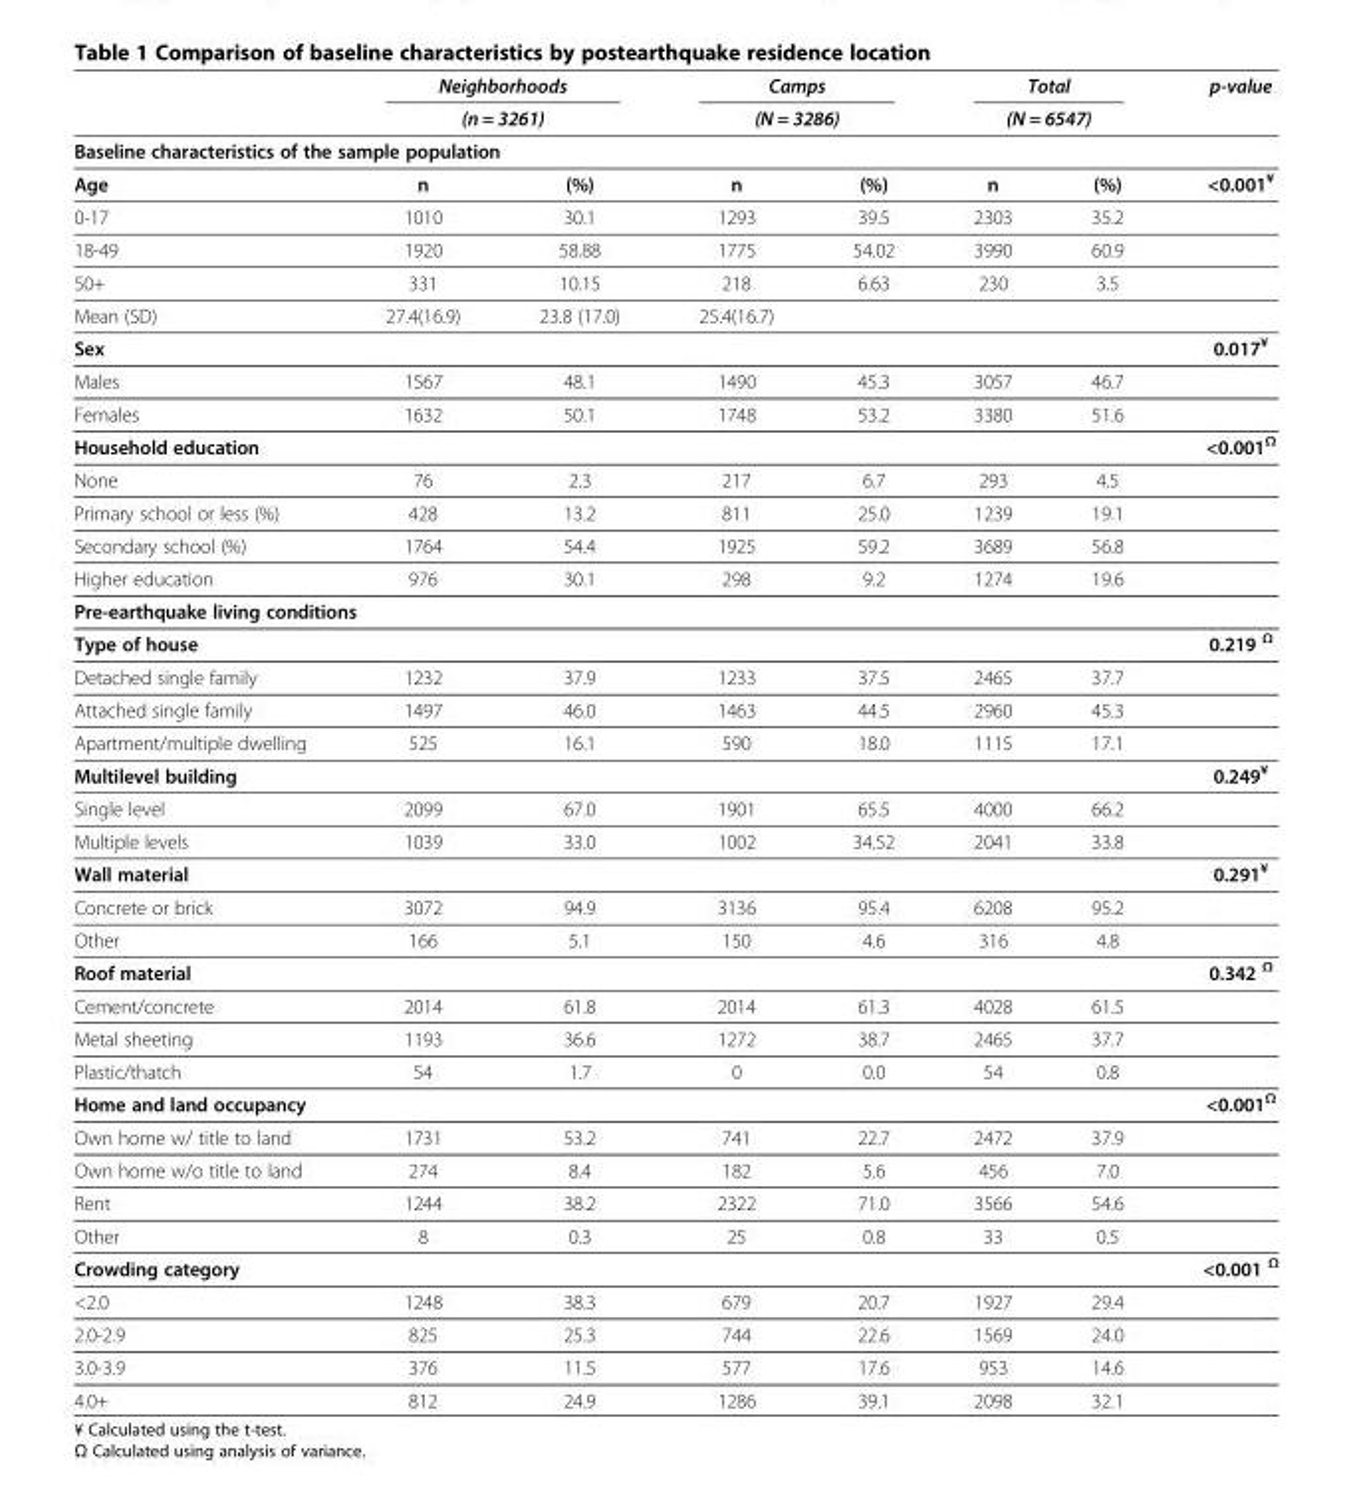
<table><thead><tr><td rowspan="2"></td><td rowspan="2" colspan="2">Neighborhoods (n = 3261)</td><td rowspan="2" colspan="2">Camps (N = 3286)</td><td rowspan="2" colspan="2">Total (N = 6547)</td><td rowspan="2">p-value</td></tr><tr></tr><tr><td colspan="8">Baseline characteristics of the sample population</td></tr><tr><td>Age</td><td>n</td><td>(%)</td><td>n</td><td>(%)</td><td>n</td><td>(%)</td><td>&lt;0.001<sup>¥</sup></td></tr></thead><tbody><tr><td>0-17</td><td>1010</td><td>30.1</td><td>1293</td><td>39.5</td><td>2303</td><td>35.2</td><td></td></tr><tr><td>18-49</td><td>1920</td><td>58.88</td><td>1775</td><td>54.02</td><td>3990</td><td>60.9</td><td></td></tr><tr><td>50+</td><td>331</td><td>10.15</td><td>218</td><td>6.63</td><td>230</td><td>3.5</td><td></td></tr><tr><td>Mean (SD)</td><td>27.4(16.9)</td><td>23.8 (17.0)</td><td>25.4(16.7)</td><td></td><td></td><td></td><td></td></tr><tr><td>Sex</td><td></td><td></td><td></td><td></td><td></td><td></td><td>0.017<sup>¥</sup></td></tr><tr><td>Males</td><td>1567</td><td>48.1</td><td>1490</td><td>45.3</td><td>3057</td><td>46.7</td><td></td></tr><tr><td>Females</td><td>1632</td><td>50.1</td><td>1748</td><td>53.2</td><td>3380</td><td>51.6</td><td></td></tr><tr><td>Household education</td><td></td><td></td><td></td><td></td><td></td><td></td><td>&lt;0.001<sup>Ω</sup></td></tr><tr><td>None</td><td>76</td><td>2.3</td><td>217</td><td>6.7</td><td>293</td><td>4.5</td><td></td></tr><tr><td>Primary school or less (%)</td><td>428</td><td>13.2</td><td>811</td><td>25.0</td><td>1239</td><td>19.1</td><td></td></tr><tr><td>Secondary school (%)</td><td>1764</td><td>54.4</td><td>1925</td><td>59.2</td><td>3689</td><td>56.8</td><td></td></tr><tr><td>Higher education</td><td>976</td><td>30.1</td><td>298</td><td>9.2</td><td>1274</td><td>19.6</td><td></td></tr><tr><td colspan="8">Pre-earthquake living conditions</td></tr><tr><td>Type of house</td><td></td><td></td><td></td><td></td><td></td><td></td><td>0.219 <sup>Ω</sup></td></tr><tr><td>Detached single family</td><td>1232</td><td>37.9</td><td>1233</td><td>37.5</td><td>2465</td><td>37.7</td><td></td></tr><tr><td>Attached single family</td><td>1497</td><td>46.0</td><td>1463</td><td>44.5</td><td>2960</td><td>45.3</td><td></td></tr><tr><td>Apartment/multiple dwelling</td><td>525</td><td>16.1</td><td>590</td><td>18.0</td><td>1115</td><td>17.1</td><td></td></tr><tr><td>Multilevel building</td><td></td><td></td><td></td><td></td><td></td><td></td><td>0.249<sup>¥</sup></td></tr><tr><td>Single level</td><td>2099</td><td>67.0</td><td>1901</td><td>65.5</td><td>4000</td><td>66.2</td><td></td></tr><tr><td>Multiple levels</td><td>1039</td><td>33.0</td><td>1002</td><td>34.52</td><td>2041</td><td>33.8</td><td></td></tr><tr><td>Wall material</td><td></td><td></td><td></td><td></td><td></td><td></td><td>0.291<sup>¥</sup></td></tr><tr><td>Concrete or brick</td><td>3072</td><td>94.9</td><td>3136</td><td>95.4</td><td>6208</td><td>95.2</td><td></td></tr><tr><td>Other</td><td>166</td><td>5.1</td><td>150</td><td>4.6</td><td>316</td><td>4.8</td><td></td></tr><tr><td>Roof material</td><td></td><td></td><td></td><td></td><td></td><td></td><td>0.342 <sup>Ω</sup></td></tr><tr><td>Cement/concrete</td><td>2014</td><td>61.8</td><td>2014</td><td>61.3</td><td>4028</td><td>61.5</td><td></td></tr><tr><td>Metal sheeting</td><td>1193</td><td>36.6</td><td>1272</td><td>38.7</td><td>2465</td><td>37.7</td><td></td></tr><tr><td>Plastic/thatch</td><td>54</td><td>1.7</td><td>0</td><td>0.0</td><td>54</td><td>0.8</td><td></td></tr><tr><td>Home and land occupancy</td><td></td><td></td><td></td><td></td><td></td><td></td><td>&lt;0.001<sup>Ω</sup></td></tr><tr><td>Own home w/ title to land</td><td>1731</td><td>53.2</td><td>741</td><td>22.7</td><td>2472</td><td>37.9</td><td></td></tr><tr><td>Own home w/o title to land</td><td>274</td><td>8.4</td><td>182</td><td>5.6</td><td>456</td><td>7.0</td><td></td></tr><tr><td>Rent</td><td>1244</td><td>38.2</td><td>2322</td><td>71.0</td><td>3566</td><td>54.6</td><td></td></tr><tr><td>Other</td><td>8</td><td>0.3</td><td>25</td><td>0.8</td><td>33</td><td>0.5</td><td></td></tr><tr><td>Crowding category</td><td></td><td></td><td></td><td></td><td></td><td></td><td>&lt;0.001 <sup>Ω</sup></td></tr><tr><td>&lt;2.0</td><td>1248</td><td>38.3</td><td>679</td><td>20.7</td><td>1927</td><td>29.4</td><td></td></tr><tr><td>2.0-2.9</td><td>825</td><td>25.3</td><td>744</td><td>22.6</td><td>1569</td><td>24.0</td><td></td></tr><tr><td>3.0-3.9</td><td>376</td><td>11.5</td><td>577</td><td>17.6</td><td>953</td><td>14.6</td><td></td></tr><tr><td>4.0+</td><td>812</td><td>24.9</td><td>1286</td><td>39.1</td><td>2098</td><td>32.1</td><td></td></tr></tbody></table>